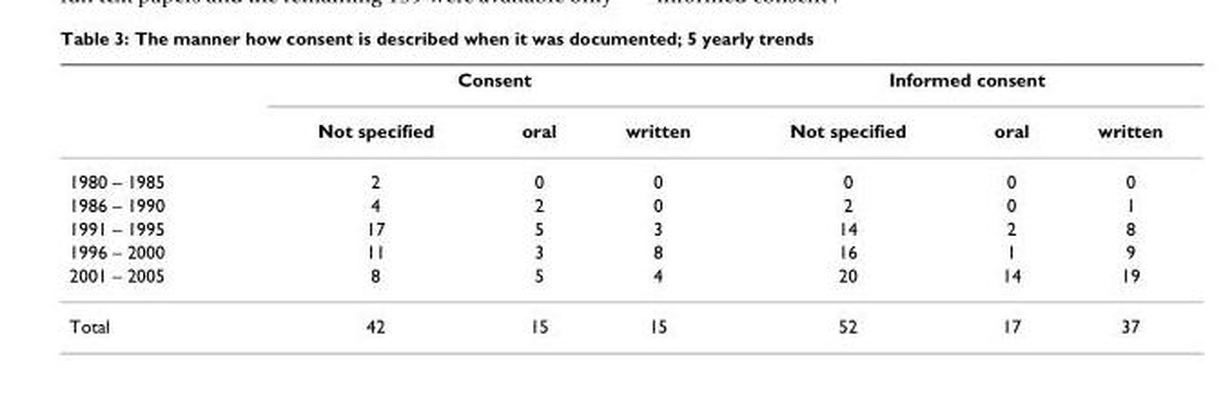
<table><thead><tr><td rowspan="2"></td><td colspan="3">Consent</td><td colspan="3">Informed consent</td></tr><tr><td>Not specified</td><td>oral</td><td>written</td><td>Not specified</td><td>oral</td><td>written</td></tr></thead><tbody><tr><td>1980 – 1985</td><td>2</td><td>0</td><td>0</td><td>0</td><td>0</td><td>0</td></tr><tr><td>1986 – 1990</td><td>4</td><td>2</td><td>0</td><td>2</td><td>0</td><td>1</td></tr><tr><td>1991 – 1995</td><td>17</td><td>5</td><td>3</td><td>14</td><td>2</td><td>8</td></tr><tr><td>1996 – 2000</td><td>11</td><td>3</td><td>8</td><td>16</td><td>1</td><td>9</td></tr><tr><td>2001 – 2005</td><td>8</td><td>5</td><td>4</td><td>20</td><td>14</td><td>19</td></tr><tr><td>Total</td><td>42</td><td>15</td><td>15</td><td>52</td><td>17</td><td>37</td></tr></tbody></table>